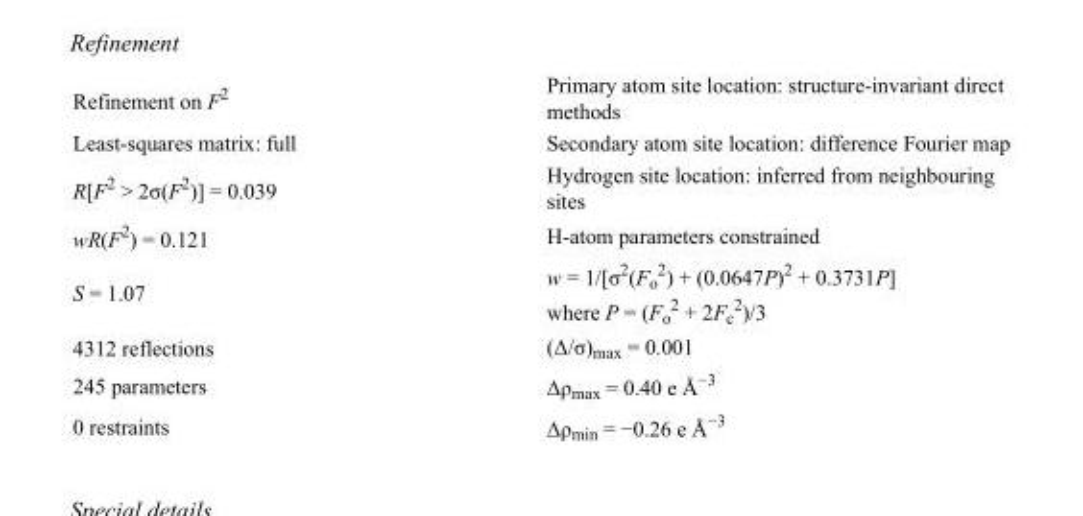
<table><tbody><tr><td>Refinement on F<sup>2</sup></td><td>Primary atom site location: structure-invariant direct methods</td></tr><tr><td>Least-squares matrix: full</td><td>Secondary atom site location: difference Fourier map</td></tr><tr><td>R[F<sup>2</sup> &gt; 2σ(F<sup>2</sup>)] = 0.039</td><td>Hydrogen site location: inferred from neighbouring sites</td></tr><tr><td>wR(F<sup>2</sup>) = 0.121</td><td>H-atom parameters constrained</td></tr><tr><td>S = 1.07</td><td>w = 1/[σ<sup>2</sup>(F<sub>o</sub> <sup>2</sup>) + (0.0647P)<sup>2</sup> + 0.3731P] where P = (F<sub>o</sub> <sup>2</sup> + 2F<sub>c</sub> <sup>2</sup>)/3</td></tr><tr><td>4312 reflections</td><td>(Δ/σ)<sub>max</sub> = 0.001</td></tr><tr><td>245 parameters</td><td>Δρ<sub>max</sub> = 0.40 e Å<sup>−3</sup></td></tr><tr><td>0 restraints</td><td>Δρ<sub>min</sub> = −0.26 e Å<sup>−3</sup></td></tr></tbody></table>